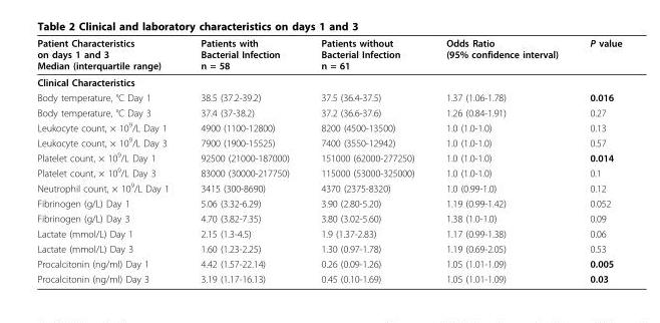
<table><thead><tr><td>Patient Characteristics on days 1 and 3 Median (interquartile range)</td><td>Patients with Bacterial Infection n = 58</td><td>Patients without Bacterial Infection n = 61</td><td>Odds Ratio (95% confidence interval)</td><td>P value</td></tr></thead><tbody><tr><td colspan="5">Clinical Characteristics</td></tr><tr><td>Body temperature, °C Day 1</td><td>38.5 (37.2-39.2)</td><td>37.5 (36.4-37.5)</td><td>1.37 (1.06-1.78)</td><td>0.016</td></tr><tr><td>Body temperature, °C Day 3</td><td>37.4 (37-38.2)</td><td>37.2 (36.6-37.6)</td><td>1.26 (0.84-1.91)</td><td>0.27</td></tr><tr><td>Leukocyte count, × 10<sup>9</sup>/L Day 1</td><td>4900 (1100-12800)</td><td>8200 (4500-13500)</td><td>1.0 (1.0-1.0)</td><td>0.13</td></tr><tr><td>Leukocyte count, × 10<sup>9</sup>/L Day 3</td><td>7900 (1900-15525)</td><td>7400 (3550-12942)</td><td>1.0 (1.0-1.0)</td><td>0.57</td></tr><tr><td>Platelet count, × 10<sup>9</sup>/L Day 1</td><td>92500 (21000-187000)</td><td>151000 (62000-277250)</td><td>1.0 (1.0-1.0)</td><td>0.014</td></tr><tr><td>Platelet count, × 10<sup>9</sup>/L Day 3</td><td>83000 (30000-217750)</td><td>115000 (53000-325000)</td><td>1.0 (1.0-1.0)</td><td>0.1</td></tr><tr><td>Neutrophil count, × 10<sup>9</sup>/L Day 1</td><td>3415 (300-8690)</td><td>4370 (2375-8320)</td><td>1.0 (0.99-1.0)</td><td>0.12</td></tr><tr><td>Fibrinogen (g/L) Day 1</td><td>5.06 (3.32-6.29)</td><td>3.90 (2.80-5.20)</td><td>1.19 (0.99-1.42)</td><td>0.052</td></tr><tr><td>Fibrinogen (g/L) Day 3</td><td>4.70 (3.82-7.35)</td><td>3.80 (3.02-5.60)</td><td>1.38 (1.0-1.0)</td><td>0.09</td></tr><tr><td>Lactate (mmol/L) Day 1</td><td>2.15 (1.3-4.5)</td><td>1.9 (1.37-2.83)</td><td>1.17 (0.99-1.38)</td><td>0.06</td></tr><tr><td>Lactate (mmol/L) Day 3</td><td>1.60 (1.23-2.25)</td><td>1.30 (0.97-1.78)</td><td>1.19 (0.69-2.05)</td><td>0.53</td></tr><tr><td>Procalcitonin (ng/ml) Day 1</td><td>4.42 (1.57-22.14)</td><td>0.26 (0.09-1.26)</td><td>1.05 (1.01-1.09)</td><td>0.005</td></tr><tr><td>Procalcitonin (ng/ml) Day 3</td><td>3.19 (1.17-16.13)</td><td>0.45 (0.10-1.69)</td><td>1.05 (1.01-1.09)</td><td>0.03</td></tr></tbody></table>